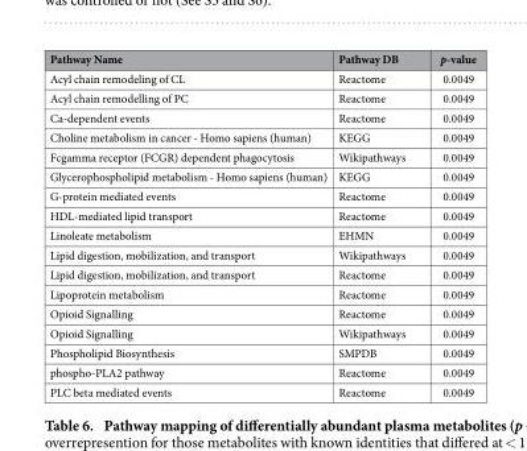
<table><thead><tr><td>Pathway Name</td><td>Pathway DB</td><td>p-value</td></tr></thead><tbody><tr><td>Acyl chain remodeling of CL</td><td>Reactome</td><td>0.0049</td></tr><tr><td>Acyl chain remodelling of PC</td><td>Reactome</td><td>0.0049</td></tr><tr><td>Ca-dependent events</td><td>Reactome</td><td>0.0049</td></tr><tr><td>Choline metabolism in cancer - Homo sapiens (human)</td><td>KEGG</td><td>0.0049</td></tr><tr><td>Fcgamma receptor (FCGR) dependent phagocytosis</td><td>Wikipathways</td><td>0.0049</td></tr><tr><td>Glycerophospholipid metabolism - Homo sapiens (human)</td><td>KEGG</td><td>0.0049</td></tr><tr><td>G-protein mediated events</td><td>Reactome</td><td>0.0049</td></tr><tr><td>HDL-mediated lipid transport</td><td>Reactome</td><td>0.0049</td></tr><tr><td>Linoleate metabolism</td><td>EHMN</td><td>0.0049</td></tr><tr><td>Lipid digestion, mobilization, and transport</td><td>Wikipathways</td><td>0.0049</td></tr><tr><td>Lipid digestion, mobilization, and transport</td><td>Reactome</td><td>0.0049</td></tr><tr><td>Lipoprotein metabolism</td><td>Reactome</td><td>0.0049</td></tr><tr><td>Opioid Signalling</td><td>Reactome</td><td>0.0049</td></tr><tr><td>Opioid Signalling</td><td>Wikipathways</td><td>0.0049</td></tr><tr><td>Phospholipid Biosynthesis</td><td>SMPDB</td><td>0.0049</td></tr><tr><td>phospho-PLA2 pathway</td><td>Reactome</td><td>0.0049</td></tr><tr><td>PLC beta mediated events</td><td>Reactome</td><td>0.0049</td></tr></tbody></table>